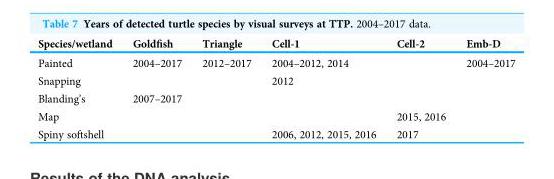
<table><thead><tr><td>Species/wetland</td><td>Goldfish</td><td>Triangle</td><td>Cell-1</td><td>Cell-2</td><td>Emb-D</td></tr></thead><tbody><tr><td>Painted</td><td>2004–2017</td><td>2012–2017</td><td>2004–2012, 2014</td><td></td><td>2004–2017</td></tr><tr><td>Snapping</td><td></td><td></td><td>2012</td><td></td><td></td></tr><tr><td>Blanding’s</td><td>2007–2017</td><td></td><td></td><td></td><td></td></tr><tr><td>Map</td><td></td><td></td><td></td><td>2015, 2016</td><td></td></tr><tr><td>Spiny softshell</td><td></td><td></td><td>2006, 2012, 2015, 2016</td><td>2017</td><td></td></tr></tbody></table>